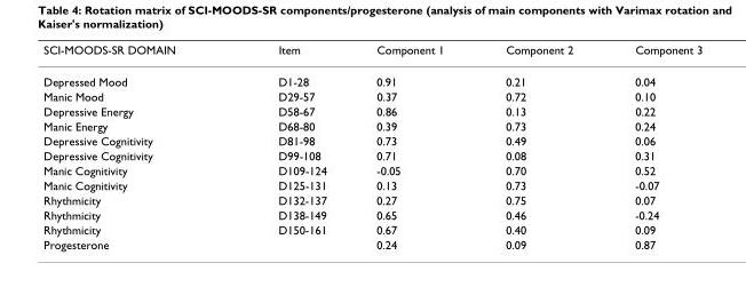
<table><thead><tr><td>SCI-MOODS-SR DOMAIN</td><td>Item</td><td>Component 1</td><td>Component 2</td><td>Component 3</td></tr></thead><tbody><tr><td>Depressed Mood</td><td>D1-28</td><td>0.91</td><td>0.21</td><td>0.04</td></tr><tr><td>Manic Mood</td><td>D29-57</td><td>0.37</td><td>0.72</td><td>0.10</td></tr><tr><td>Depressive Energy</td><td>D58-67</td><td>0.86</td><td>0.13</td><td>0.22</td></tr><tr><td>Manic Energy</td><td>D68-80</td><td>0.39</td><td>0.73</td><td>0.24</td></tr><tr><td>Depressive Cognitivity</td><td>D81-98</td><td>0.73</td><td>0.49</td><td>0.06</td></tr><tr><td>Depressive Cognitivity</td><td>D99-108</td><td>0.71</td><td>0.08</td><td>0.31</td></tr><tr><td>Manic Cognitivity</td><td>D109-124</td><td>-0.05</td><td>0.70</td><td>0.52</td></tr><tr><td>Manic Cognitivity</td><td>D125-131</td><td>0.13</td><td>0.73</td><td>-0.07</td></tr><tr><td>Rhythmicity</td><td>D132-137</td><td>0.27</td><td>0.75</td><td>0.07</td></tr><tr><td>Rhythmicity</td><td>D138-149</td><td>0.65</td><td>0.46</td><td>-0.24</td></tr><tr><td>Rhythmicity</td><td>D150-161</td><td>0.67</td><td>0.40</td><td>0.09</td></tr><tr><td>Progesterone</td><td></td><td>0.24</td><td>0.09</td><td>0.87</td></tr></tbody></table>